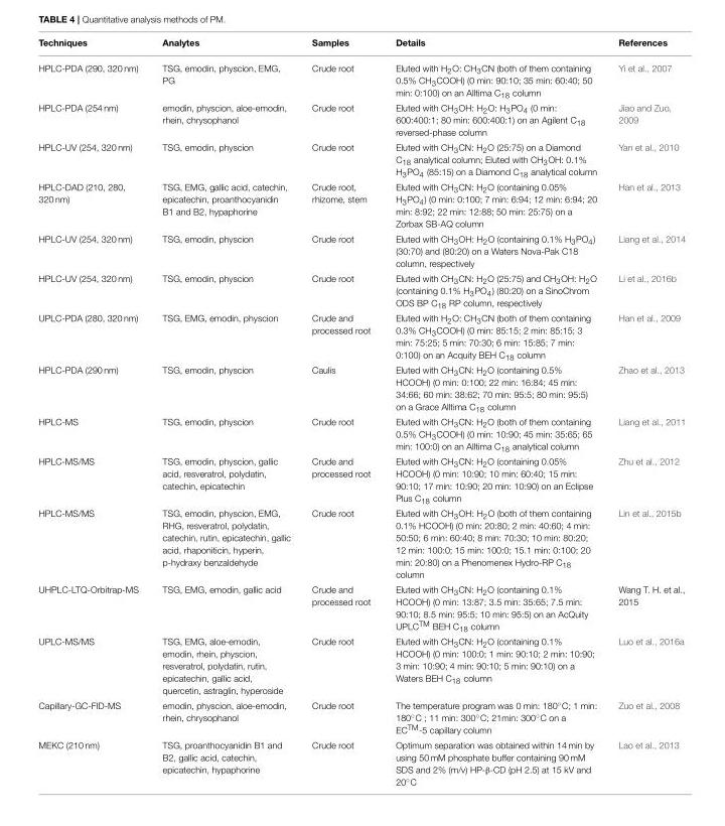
<table><thead><tr><td>Techniques</td><td>Analytes</td><td>Samples</td><td>Details</td><td>References</td></tr></thead><tbody><tr><td>HPLC-PDA (290, 320 nm)</td><td>TSG, emodin, physcion, EMG, PG</td><td>Crude root</td><td>Eluted with H<sub>2</sub>O: CH<sub>3</sub>CN (both of them containing 0.5% CH<sub>3</sub>COOH) (0 min: 90:10; 35 min: 60:40; 50 min: 0:100) on an Alltima C<sub>18</sub> column</td><td>Yi et al., 2007</td></tr><tr><td>HPLC-PDA (254 nm)</td><td>emodin, physcion, aloe-emodin, rhein, chrysophanol</td><td>Crude root</td><td>Eluted with CH<sub>3</sub>OH: H<sub>2</sub>O: H<sub>3</sub>PO<sub>4</sub> (0 min: 600:400:1; 80 min: 600:400:1) on an Agilent C<sub>18</sub> reversed-phase column</td><td>Jiao and Zuo, 2009</td></tr><tr><td>HPLC-UV (254, 320 nm)</td><td>TSG, emodin, physcion</td><td>Crude root</td><td>Eluted with CH<sub>3</sub>CN: H<sub>2</sub>O (25:75) on a Diamond C<sub>18</sub> analytical column; Eluted with CH<sub>3</sub>OH: 0.1% H<sub>3</sub>PO<sub>4</sub> (85:15) on a Diamond C<sub>18</sub> analytical column</td><td>Yan et al., 2010</td></tr><tr><td>HPLC-DAD (210, 280, 320 nm)</td><td>TSG, EMG, gallic acid, catechin, epicatechin, proanthocyanidin B1 and B2, hypaphorine</td><td>Crude root, rhizome, stem</td><td>Eluted with CH<sub>3</sub>CN: H<sub>2</sub>O (containing 0.05% H<sub>3</sub>PO<sub>4</sub>) (0 min: 0:100; 7 min: 6:94; 12 min: 6:94; 20 min: 8:92; 22 min: 12:88; 50 min: 25:75) on a Zorbax SB-AQ column</td><td>Han et al., 2013</td></tr><tr><td>HPLC-UV (254, 320 nm)</td><td>TSG, emodin, physcion</td><td>Crude root</td><td>Eluted with CH<sub>3</sub>OH: H<sub>2</sub>O (containing 0.1% H<sub>3</sub>PO<sub>4</sub>) (30:70) and (80:20) on a Waters Nova-Pak C18 column, respectively</td><td>Liang et al., 2014</td></tr><tr><td>HPLC-UV (254, 320 nm)</td><td>TSG, emodin, physcion</td><td>Crude root</td><td>Eluted with CH<sub>3</sub>CN: H<sub>2</sub>O (25:75) and CH<sub>3</sub>OH: H<sub>2</sub>O (containing 0.1% H<sub>3</sub>PO<sub>4</sub>) (80:20) on a SinoChrom ODS BP C<sub>18</sub> RP column, respectively</td><td>Li et al., 2016b</td></tr><tr><td>UPLC-PDA (280, 320 nm)</td><td>TSG, EMG, emodin, physcion</td><td>Crude and processed root</td><td>Eluted with H<sub>2</sub>O: CH<sub>3</sub>CN (both of them containing 0.3% CH<sub>3</sub>COOH) (0 min: 85:15; 2 min: 85:15; 3 min: 75:25; 5 min: 70:30; 6 min: 15:85; 7 min: 0:100) on an Acquity BEH C<sub>18</sub> column</td><td>Han et al., 2009</td></tr><tr><td>HPLC-PDA (290 nm)</td><td>TSG, emodin, physcion</td><td>Caulis</td><td>Eluted with CH<sub>3</sub>CN: H<sub>2</sub>O (containing 0.5% HCOOH) (0 min: 0:100; 22 min: 16:84; 45 min: 34:66; 60 min: 38:62; 70 min: 95:5; 80 min: 95:5) on a Grace Alltima C<sub>18</sub> column</td><td>Zhao et al., 2013</td></tr><tr><td>HPLC-MS</td><td>TSG, emodin, physcion</td><td>Crude root</td><td>Eluted with CH<sub>3</sub>CN: H<sub>2</sub>O (both of them containing 0.5% CH<sub>3</sub>COOH) (0 min: 10:90; 45 min: 35:65; 65 min: 100:0) on an Alltima C<sub>18</sub> analytical column</td><td>Liang et al., 2011</td></tr><tr><td>HPLC-MS/MS</td><td>TSG, emodin, physcion, gallic acid, resveratrol, polydatin, catechin, epicatechin</td><td>Crude and processed root</td><td>Eluted with CH<sub>3</sub>CN: H<sub>2</sub>O (containing 0.05% HCOOH) (0 min: 10:90; 10 min: 60:40; 15 min: 90:10; 17 min: 10:90; 20 min: 10:90) on an Eclipse Plus C<sub>18</sub> column</td><td>Zhu et al., 2012</td></tr><tr><td>HPLC-MS/MS</td><td>TSG, emodin, physcion, EMG, RHG, resveratrol, polydatin, catechin, rutin, epicatechin, gallic acid, rhaponiticin, hyperin, p-hydraxy benzaldehyde</td><td>Crude root</td><td>Eluted with CH<sub>3</sub>OH: H<sub>2</sub>O (both of them containing 0.1% HCOOH) (0 min: 20:80; 2 min: 40:60; 4 min: 50:50; 6 min: 60:40; 8 min: 70:30; 10 min: 80:20; 12 min: 100:0; 15 min: 100:0; 15.1 min: 0:100; 20 min: 20:80) on a Phenomenex Hydro-RP C<sub>18</sub> column</td><td>Lin et al., 2015b</td></tr><tr><td>UHPLC-LTQ-Orbitrap-MS</td><td>TSG, EMG, emodin, gallic acid</td><td>Crude and processed root</td><td>Eluted with CH<sub>3</sub>CN: H<sub>2</sub>O (containing 0.1% HCOOH) (0 min: 13:87; 3.5 min: 35:65; 7.5 min: 90:10; 8.5 min: 95:5; 10 min: 95:5) on an AcQuity UPLCTM BEH C<sub>18</sub> column</td><td>Wang T. H. et al., 2015</td></tr><tr><td>UPLC-MS/MS</td><td>TSG, EMG, aloe-emodin, emodin, rhein, physcion, resveratrol, polydatin, rutin, epicatechin, gallic acid, quercetin, astraglin, hyperoside</td><td>Crude root</td><td>Eluted with CH<sub>3</sub>CN: H<sub>2</sub>O (containing 0.1% HCOOH) (0 min: 100:0; 1 min: 90:10; 2 min: 10:90; 3 min: 10:90; 4 min: 90:10; 5 min: 90:10) on a Waters BEH C<sub>18</sub> column</td><td>Luo et al., 2016a</td></tr><tr><td>Capillary-GC-FID-MS</td><td>emodin, physcion, aloe-emodin, rhein, chrysophanol</td><td>Crude root</td><td>The temperature program was 0 min: 180◦C; 1 min: 180◦C ; 11 min: 300◦C; 21min: 300◦C on a ECTM-5 capillary column</td><td>Zuo et al., 2008</td></tr><tr><td>MEKC (210 nm)</td><td>TSG, proanthocyanidin B1 and B2, gallic acid, catechin, epicatechin, hypaphorine</td><td>Crude root</td><td>Optimum separation was obtained within 14 min by using 50 mM phosphate buffer containing 90 mM SDS and 2% (m/v) HP-β-CD (pH 2.5) at 15 kV and 20◦C</td><td>Lao et al., 2013</td></tr></tbody></table>